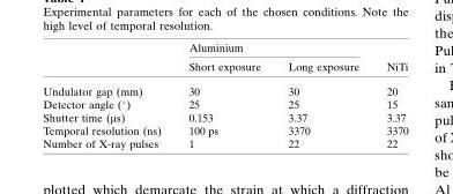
<table><thead><tr><td rowspan="2"></td><td colspan="2">Aluminium</td><td rowspan="2">NiTi</td></tr><tr><td>Short exposure</td><td>Long exposure</td></tr></thead><tbody><tr><td>Undulator gap (mm)</td><td>30</td><td>30</td><td>20</td></tr><tr><td>Detector angle (°)</td><td>25</td><td>25</td><td>15</td></tr><tr><td>Shutter time (µs)</td><td>0.153</td><td>3.37</td><td>3.37</td></tr><tr><td>Temporal resolution (ns)</td><td>100 ps</td><td>3370</td><td>3370</td></tr><tr><td>Number of X-ray pulses</td><td>1</td><td>22</td><td>22</td></tr></tbody></table>